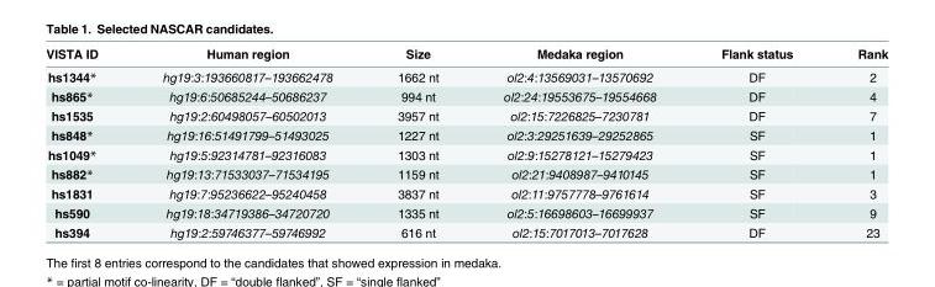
<table><thead><tr><td>VISTA ID</td><td>Human region</td><td>Size</td><td>Medaka region</td><td>Flank status</td><td>Rank</td></tr></thead><tbody><tr><td>hs1344*</td><td>hg19:3:193660817–193662478</td><td>1662 nt</td><td>ol2:4:13569031–13570692</td><td>DF</td><td>2</td></tr><tr><td>hs865*</td><td>hg19:6:50685244–50686237</td><td>994 nt</td><td>ol2:24:19553675–19554668</td><td>DF</td><td>4</td></tr><tr><td>hs1535</td><td>hg19:2:60498057–60502013</td><td>3957 nt</td><td>ol2:15:7226825–7230781</td><td>DF</td><td>7</td></tr><tr><td>hs848*</td><td>hg19:16:51491799–51493025</td><td>1227 nt</td><td>ol2:3:29251639–29252865</td><td>SF</td><td>1</td></tr><tr><td>hs1049*</td><td>hg19:5:92314781–92316083</td><td>1303 nt</td><td>ol2:9:15278121–15279423</td><td>SF</td><td>1</td></tr><tr><td>hs882*</td><td>hg19:13:71533037–71534195</td><td>1159 nt</td><td>ol2:21:9408987–9410145</td><td>SF</td><td>1</td></tr><tr><td>hs1831</td><td>hg19:7:95236622–95240458</td><td>3837 nt</td><td>ol2:11:9757778–9761614</td><td>SF</td><td>3</td></tr><tr><td>hs590</td><td>hg19:18:34719386–34720720</td><td>1335 nt</td><td>ol2:5:16698603–16699937</td><td>SF</td><td>9</td></tr><tr><td>hs394</td><td>hg19:2:59746377–59746992</td><td>616 nt</td><td>ol2:15:7017013–7017628</td><td>DF</td><td>23</td></tr></tbody></table>